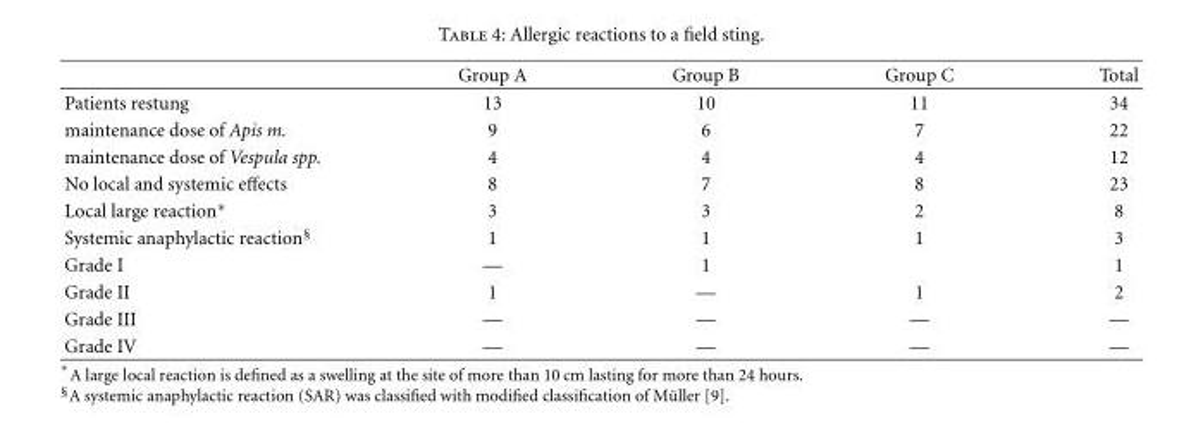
<table><thead><tr><td></td><td>Group A</td><td>Group B</td><td>Group C</td><td>Total</td></tr></thead><tbody><tr><td>Patients restung</td><td>13</td><td>10</td><td>11</td><td>34</td></tr><tr><td>maintenance dose of Apis m.</td><td>9</td><td>6</td><td>7</td><td>22</td></tr><tr><td>maintenance dose of Vespula spp.</td><td>4</td><td>4</td><td>4</td><td>12</td></tr><tr><td>No local and systemic effects</td><td>8</td><td>7</td><td>8</td><td>23</td></tr><tr><td>Local large reaction∗</td><td>3</td><td>3</td><td>2</td><td>8</td></tr><tr><td>Systemic anaphylactic reaction<sup>§</sup></td><td>1</td><td>1</td><td>1</td><td>3</td></tr><tr><td>Grade I</td><td>—</td><td>1</td><td></td><td>1</td></tr><tr><td>Grade II</td><td>1</td><td>—</td><td>1</td><td>2</td></tr><tr><td>Grade III</td><td>—</td><td>—</td><td>—</td><td>—</td></tr><tr><td>Grade IV</td><td>—</td><td>—</td><td>—</td><td>—</td></tr></tbody></table>